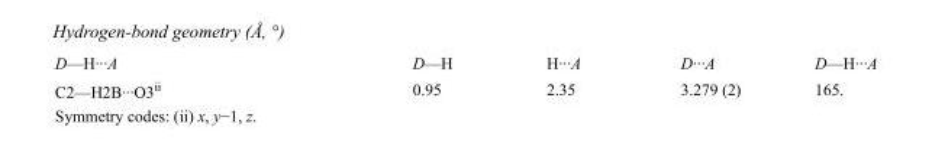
<table><tbody><tr><td>D—H···A</td><td>D—H</td><td>H···A</td><td>D···A</td><td>D—H···A</td></tr><tr><td>C2—H2B···O3<sup>ii</sup></td><td>0.95</td><td>2.35</td><td>3.279 (2)</td><td>165.</td></tr></tbody></table>